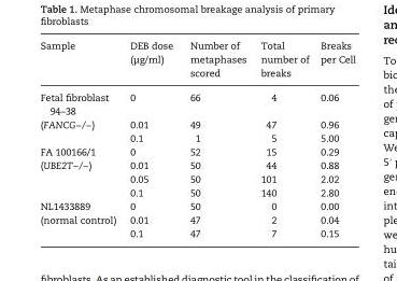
<table><thead><tr><td>Sample</td><td>DEB dose (µg/ml)</td><td>Number of metaphases scored</td><td>Total number of breaks</td><td>Breaks per Cell</td></tr></thead><tbody><tr><td>Fetal fibroblast 94–38</td><td>0</td><td>66</td><td>4</td><td>0.06</td></tr><tr><td rowspan="2">(FANCG−/−)</td><td>0.01</td><td>49</td><td>47</td><td>0.96</td></tr><tr><td>0.1</td><td>1</td><td>5</td><td>5.00</td></tr><tr><td>FA 100166/1</td><td>0</td><td>52</td><td>15</td><td>0.29</td></tr><tr><td rowspan="3">(UBE2T−/−)</td><td>0.01</td><td>50</td><td>44</td><td>0.88</td></tr><tr><td>0.05</td><td>50</td><td>101</td><td>2.02</td></tr><tr><td>0.1</td><td>50</td><td>140</td><td>2.80</td></tr><tr><td>NL1433889</td><td>0</td><td>50</td><td>0</td><td>0.00</td></tr><tr><td rowspan="2">(normal control)</td><td>0.01</td><td>47</td><td>2</td><td>0.04</td></tr><tr><td>0.1</td><td>47</td><td>7</td><td>0.15</td></tr></tbody></table>